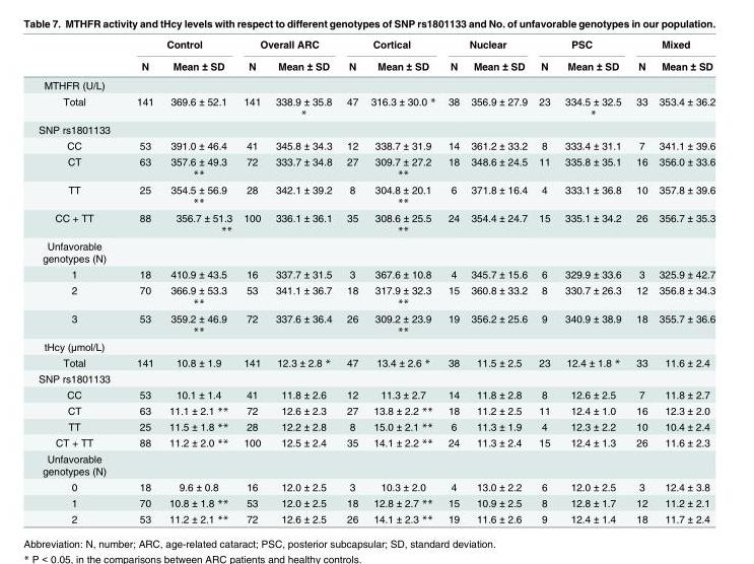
<table><thead><tr><td rowspan="2"></td><td colspan="2">Control</td><td colspan="2">Overall ARC</td><td colspan="2">Cortical</td><td colspan="2">Nuclear</td><td colspan="2">PSC</td><td colspan="2">Mixed</td></tr><tr><td>N</td><td>Mean ± SD</td><td>N</td><td>Mean ± SD</td><td>N</td><td>Mean ± SD</td><td>N</td><td>Mean ± SD</td><td>N</td><td>Mean ± SD</td><td>N</td><td>Mean ± SD</td></tr></thead><tbody><tr><td colspan="13">MTHFR (U/L)</td></tr><tr><td>Total</td><td>141</td><td>369.6 ± 52.1</td><td>141</td><td>338.9 ± 35.8 *</td><td>47</td><td>316.3 ± 30.0 *</td><td>38</td><td>356.9 ± 27.9</td><td>23</td><td>334.5 ± 32.5 *</td><td>33</td><td>353.4 ± 36.2</td></tr><tr><td colspan="13">SNP rs1801133</td></tr><tr><td>CC</td><td>53</td><td>391.0 ± 46.4</td><td>41</td><td>345.8 ± 34.3</td><td>12</td><td>338.7 ± 31.9</td><td>14</td><td>361.2 ± 33.2</td><td>8</td><td>333.4 ± 31.1</td><td>7</td><td>341.1 ± 39.6</td></tr><tr><td>CT</td><td>63</td><td>357.6 ± 49.3 **</td><td>72</td><td>333.7 ± 34.8</td><td>27</td><td>309.7 ± 27.2 **</td><td>18</td><td>348.6 ± 24.5</td><td>11</td><td>335.8 ± 35.1</td><td>16</td><td>356.0 ± 33.6</td></tr><tr><td>TT</td><td>25</td><td>354.5 ± 56.9 **</td><td>28</td><td>342.1 ± 39.2</td><td>8</td><td>304.8 ± 20.1 **</td><td>6</td><td>371.8 ± 16.4</td><td>4</td><td>333.1 ± 36.8</td><td>10</td><td>357.8 ± 39.6</td></tr><tr><td>CC + TT</td><td>88</td><td>356.7 ± 51.3 **</td><td>100</td><td>336.1 ± 36.1</td><td>35</td><td>308.6 ± 25.5 **</td><td>24</td><td>354.4 ± 24.7</td><td>15</td><td>335.1 ± 34.2</td><td>26</td><td>356.7 ± 35.3</td></tr><tr><td colspan="13">Unfavorable genotypes (N)</td></tr><tr><td>1</td><td>18</td><td>410.9 ± 43.5</td><td>16</td><td>337.7 ± 31.5</td><td>3</td><td>367.6 ± 10.8</td><td>4</td><td>345.7 ± 15.6</td><td>6</td><td>329.9 ± 33.6</td><td>3</td><td>325.9 ± 42.7</td></tr><tr><td>2</td><td>70</td><td>366.9 ± 53.3 **</td><td>53</td><td>341.1 ± 36.7</td><td>18</td><td>317.9 ± 32.3 **</td><td>15</td><td>360.8 ± 33.2</td><td>8</td><td>330.7 ± 26.3</td><td>12</td><td>356.8 ± 34.3</td></tr><tr><td>3</td><td>53</td><td>359.2 ± 46.9 **</td><td>72</td><td>337.6 ± 36.4</td><td>26</td><td>309.2 ± 23.9 **</td><td>19</td><td>356.2 ± 25.6</td><td>9</td><td>340.9 ± 38.9</td><td>18</td><td>355.7 ± 36.6</td></tr><tr><td colspan="13">tHcy (μmol/L)</td></tr><tr><td>Total</td><td>141</td><td>10.8 ± 1.9</td><td>141</td><td>12.3 ± 2.8 *</td><td>47</td><td>13.4 ± 2.6 *</td><td>38</td><td>11.5 ± 2.5</td><td>23</td><td>12.4 ± 1.8 *</td><td>33</td><td>11.6 ± 2.4</td></tr><tr><td colspan="13">SNP rs1801133</td></tr><tr><td>CC</td><td>53</td><td>10.1 ± 1.4</td><td>41</td><td>11.8 ± 2.6</td><td>12</td><td>11.3 ± 2.7</td><td>14</td><td>11.8 ± 2.8</td><td>8</td><td>12.6 ± 2.5</td><td>7</td><td>11.8 ± 2.7</td></tr><tr><td>CT</td><td>63</td><td>11.1 ± 2.1 **</td><td>72</td><td>12.6 ± 2.3</td><td>27</td><td>13.8 ± 2.2 **</td><td>18</td><td>11.2 ± 2.5</td><td>11</td><td>12.4 ± 1.0</td><td>16</td><td>12.3 ± 2.0</td></tr><tr><td>TT</td><td>25</td><td>11.5 ± 1.8 **</td><td>28</td><td>12.2 ± 2.8</td><td>8</td><td>15.0 ± 2.1 **</td><td>6</td><td>11.3 ± 1.9</td><td>4</td><td>12.3 ± 2.2</td><td>10</td><td>10.4 ± 2.4</td></tr><tr><td>CT + TT</td><td>88</td><td>11.2 ± 2.0 **</td><td>100</td><td>12.5 ± 2.4</td><td>35</td><td>14.1 ± 2.2 **</td><td>24</td><td>11.3 ± 2.4</td><td>15</td><td>12.4 ± 1.3</td><td>26</td><td>11.6 ± 2.3</td></tr><tr><td colspan="13">Unfavorable genotypes (N)</td></tr><tr><td>0</td><td>18</td><td>9.6 ± 0.8</td><td>16</td><td>12.0 ± 2.5</td><td>3</td><td>10.3 ± 2.0</td><td>4</td><td>13.0 ± 2.2</td><td>6</td><td>12.0 ± 2.5</td><td>3</td><td>12.4 ± 3.8</td></tr><tr><td>1</td><td>70</td><td>10.8 ± 1.8 **</td><td>53</td><td>12.0 ± 2.5</td><td>18</td><td>12.8 ± 2.7 **</td><td>15</td><td>10.9 ± 2.5</td><td>8</td><td>12.8 ± 1.7</td><td>12</td><td>11.2 ± 2.1</td></tr><tr><td>2</td><td>53</td><td>11.2 ± 2.1 **</td><td>72</td><td>12.6 ± 2.5</td><td>26</td><td>14.1 ± 2.3 **</td><td>19</td><td>11.6 ± 2.6</td><td>9</td><td>12.4 ± 1.4</td><td>18</td><td>11.7 ± 2.4</td></tr></tbody></table>